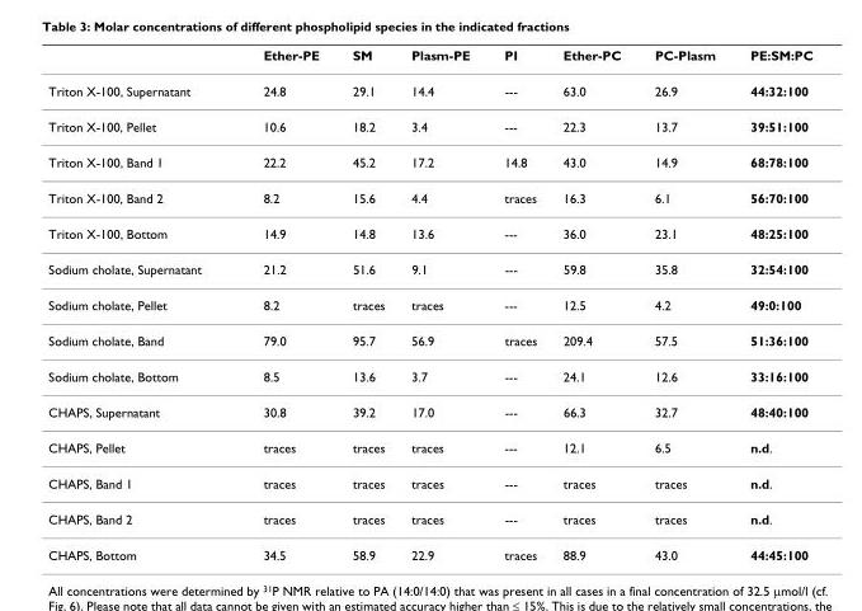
<table><thead><tr><td></td><td>Ether-PE</td><td>SM</td><td>Plasm-PE</td><td>PI</td><td>Ether-PC</td><td>PC-Plasm</td><td>PE:SM:PC</td></tr></thead><tbody><tr><td>Triton X-100, Supernatant</td><td>24.8</td><td>29.1</td><td>14.4</td><td>---</td><td>63.0</td><td>26.9</td><td>44:32:100</td></tr><tr><td>Triton X-100, Pellet</td><td>10.6</td><td>18.2</td><td>3.4</td><td>---</td><td>22.3</td><td>13.7</td><td>39:51:100</td></tr><tr><td>Triton X-100, Band 1</td><td>22.2</td><td>45.2</td><td>17.2</td><td>14.8</td><td>43.0</td><td>14.9</td><td>68:78:100</td></tr><tr><td>Triton X-100, Band 2</td><td>8.2</td><td>15.6</td><td>4.4</td><td>traces</td><td>16.3</td><td>6.1</td><td>56:70:100</td></tr><tr><td>Triton X-100, Bottom</td><td>14.9</td><td>14.8</td><td>13.6</td><td>---</td><td>36.0</td><td>23.1</td><td>48:25:100</td></tr><tr><td>Sodium cholate, Supernatant</td><td>21.2</td><td>51.6</td><td>9.1</td><td>---</td><td>59.8</td><td>35.8</td><td>32:54:100</td></tr><tr><td>Sodium cholate, Pellet</td><td>8.2</td><td>traces</td><td>traces</td><td>---</td><td>12.5</td><td>4.2</td><td>49:0:100</td></tr><tr><td>Sodium cholate, Band</td><td>79.0</td><td>95.7</td><td>56.9</td><td>traces</td><td>209.4</td><td>57.5</td><td>51:36:100</td></tr><tr><td>Sodium cholate, Bottom</td><td>8.5</td><td>13.6</td><td>3.7</td><td>---</td><td>24.1</td><td>12.6</td><td>33:16:100</td></tr><tr><td>CHAPS, Supernatant</td><td>30.8</td><td>39.2</td><td>17.0</td><td>---</td><td>66.3</td><td>32.7</td><td>48:40:100</td></tr><tr><td>CHAPS, Pellet</td><td>traces</td><td>traces</td><td>traces</td><td>---</td><td>12.1</td><td>6.5</td><td>n.d.</td></tr><tr><td>CHAPS, Band 1</td><td>traces</td><td>traces</td><td>traces</td><td>---</td><td>traces</td><td>traces</td><td>n.d.</td></tr><tr><td>CHAPS, Band 2</td><td>traces</td><td>traces</td><td>traces</td><td>---</td><td>traces</td><td>traces</td><td>n.d.</td></tr><tr><td>CHAPS, Bottom</td><td>34.5</td><td>58.9</td><td>22.9</td><td>traces</td><td>88.9</td><td>43.0</td><td>44:45:100</td></tr></tbody></table>